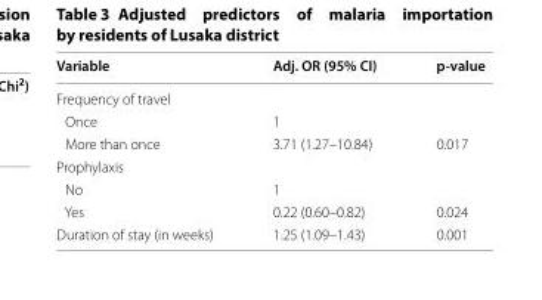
<table><thead><tr><td>Variable</td><td>Adj. OR (95% CI)</td><td>p-value</td></tr></thead><tbody><tr><td colspan="3">Frequency of travel</td></tr><tr><td>Once</td><td>1</td><td></td></tr><tr><td>More than once</td><td>3.71 (1.27–10.84)</td><td>0.017</td></tr><tr><td colspan="3">Prophylaxis</td></tr><tr><td>No</td><td>1</td><td></td></tr><tr><td>Yes</td><td>0.22 (0.60–0.82)</td><td>0.024</td></tr><tr><td>Duration of stay (in weeks)</td><td>1.25 (1.09–1.43)</td><td>0.001</td></tr></tbody></table>